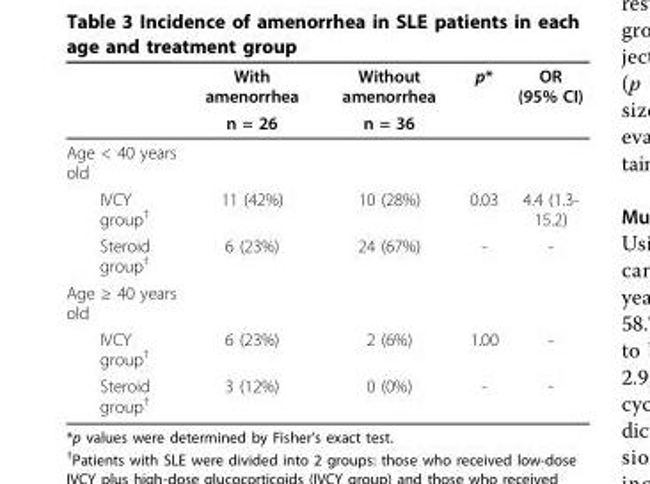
<table><thead><tr><td rowspan="2"></td><td rowspan="2">With amenorrhea n = 26</td><td rowspan="2">Without amenorrhea n = 36</td><td rowspan="2">p*</td><td rowspan="2">OR (95% CI)</td></tr><tr></tr></thead><tbody><tr><td colspan="5">Age &lt; 40 years old</td></tr><tr><td>IVCY group<sup>†</sup></td><td>11 (42%)</td><td>10 (28%)</td><td>0.03</td><td>4.4 (1.3- 15.2)</td></tr><tr><td>Steroid group<sup>†</sup></td><td>6 (23%)</td><td>24 (67%)</td><td>-</td><td>-</td></tr><tr><td colspan="5">Age ≥ 40 years old</td></tr><tr><td>IVCY group<sup>†</sup></td><td>6 (23%)</td><td>2 (6%)</td><td>1.00</td><td>-</td></tr><tr><td>Steroid group<sup>†</sup></td><td>3 (12%)</td><td>0 (0%)</td><td>-</td><td>-</td></tr></tbody></table>